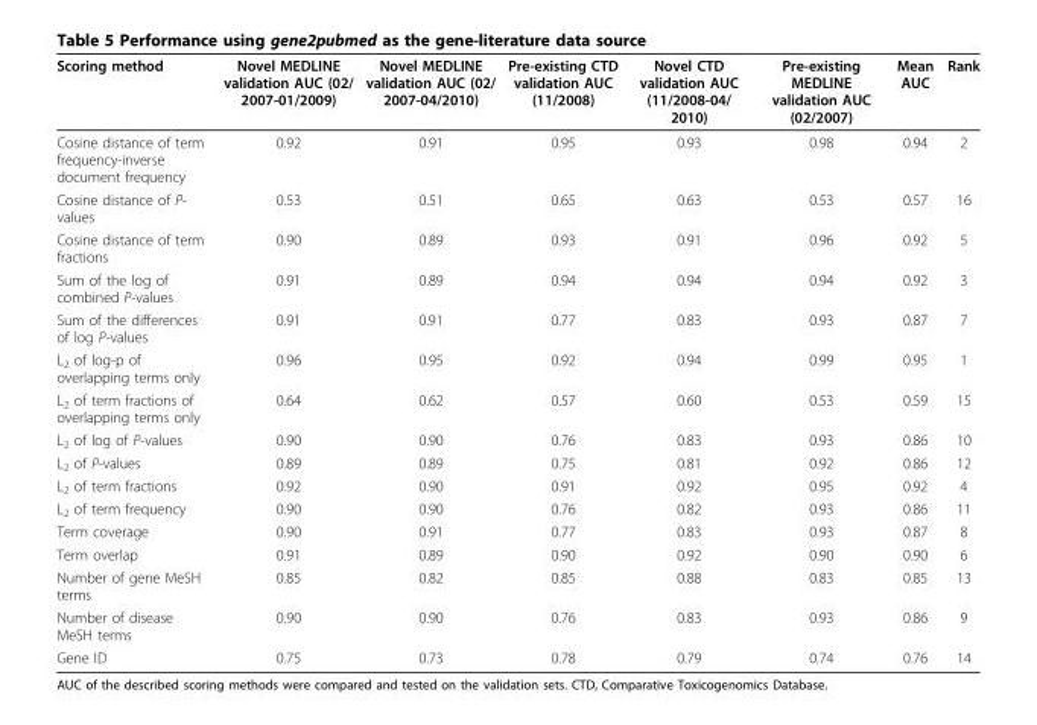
<table><thead><tr><td>Scoring method</td><td>Novel MEDLINE validation AUC (02/ 2007-01/2009)</td><td>Novel MEDLINE validation AUC (02/ 2007-04/2010)</td><td>Pre-existing CTD validation AUC (11/2008)</td><td>Novel CTD validation AUC (11/2008-04/ 2010)</td><td>Pre-existing MEDLINE validation AUC (02/2007)</td><td>Mean AUC</td><td>Rank</td></tr></thead><tbody><tr><td>Cosine distance of term frequency-inverse document frequency</td><td>0.92</td><td>0.91</td><td>0.95</td><td>0.93</td><td>0.98</td><td>0.94</td><td>2</td></tr><tr><td>Cosine distance of P- values</td><td>0.53</td><td>0.51</td><td>0.65</td><td>0.63</td><td>0.53</td><td>0.57</td><td>16</td></tr><tr><td>Cosine distance of term fractions</td><td>0.90</td><td>0.89</td><td>0.93</td><td>0.91</td><td>0.96</td><td>0.92</td><td>5</td></tr><tr><td>Sum of the log of combined P-values</td><td>0.91</td><td>0.89</td><td>0.94</td><td>0.94</td><td>0.94</td><td>0.92</td><td>3</td></tr><tr><td>Sum of the differences of log P-values</td><td>0.91</td><td>0.91</td><td>0.77</td><td>0.83</td><td>0.93</td><td>0.87</td><td>7</td></tr><tr><td>L<sub>2</sub> of log-p of overlapping terms only</td><td>0.96</td><td>0.95</td><td>0.92</td><td>0.94</td><td>0.99</td><td>0.95</td><td>1</td></tr><tr><td>L<sub>2</sub> of term fractions of overlapping terms only</td><td>0.64</td><td>0.62</td><td>0.57</td><td>0.60</td><td>0.53</td><td>0.59</td><td>15</td></tr><tr><td>L<sub>2</sub> of log of P-values</td><td>0.90</td><td>0.90</td><td>0.76</td><td>0.83</td><td>0.93</td><td>0.86</td><td>10</td></tr><tr><td>L<sub>2</sub> of P-values</td><td>0.89</td><td>0.89</td><td>0.75</td><td>0.81</td><td>0.92</td><td>0.86</td><td>12</td></tr><tr><td>L<sub>2</sub> of term fractions</td><td>0.92</td><td>0.90</td><td>0.91</td><td>0.92</td><td>0.95</td><td>0.92</td><td>4</td></tr><tr><td>L<sub>2</sub> of term frequency</td><td>0.90</td><td>0.90</td><td>0.76</td><td>0.82</td><td>0.93</td><td>0.86</td><td>11</td></tr><tr><td>Term coverage</td><td>0.90</td><td>0.91</td><td>0.77</td><td>0.83</td><td>0.93</td><td>0.87</td><td>8</td></tr><tr><td>Term overlap</td><td>0.91</td><td>0.89</td><td>0.90</td><td>0.92</td><td>0.90</td><td>0.90</td><td>6</td></tr><tr><td>Number of gene MeSH terms</td><td>0.85</td><td>0.82</td><td>0.85</td><td>0.88</td><td>0.83</td><td>0.85</td><td>13</td></tr><tr><td>Number of disease MeSH terms</td><td>0.90</td><td>0.90</td><td>0.76</td><td>0.83</td><td>0.93</td><td>0.86</td><td>9</td></tr><tr><td>Gene ID</td><td>0.75</td><td>0.73</td><td>0.78</td><td>0.79</td><td>0.74</td><td>0.76</td><td>14</td></tr></tbody></table>